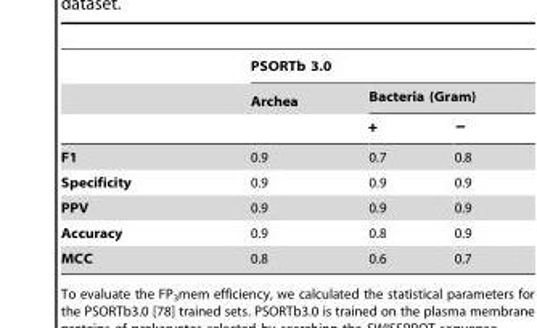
<table><thead><tr><td rowspan="3"></td><td colspan="3">PSORTb 3.0</td></tr><tr><td rowspan="2">Archea</td><td colspan="2">Bacteria (Gram)</td></tr><tr><td>+</td><td>−</td></tr></thead><tbody><tr><td>F1</td><td>0.9</td><td>0.7</td><td>0.8</td></tr><tr><td>Specificity</td><td>0.9</td><td>0.9</td><td>0.9</td></tr><tr><td>PPV</td><td>0.9</td><td>0.9</td><td>0.9</td></tr><tr><td>Accuracy</td><td>0.9</td><td>0.8</td><td>0.9</td></tr><tr><td>MCC</td><td>0.8</td><td>0.6</td><td>0.7</td></tr></tbody></table>